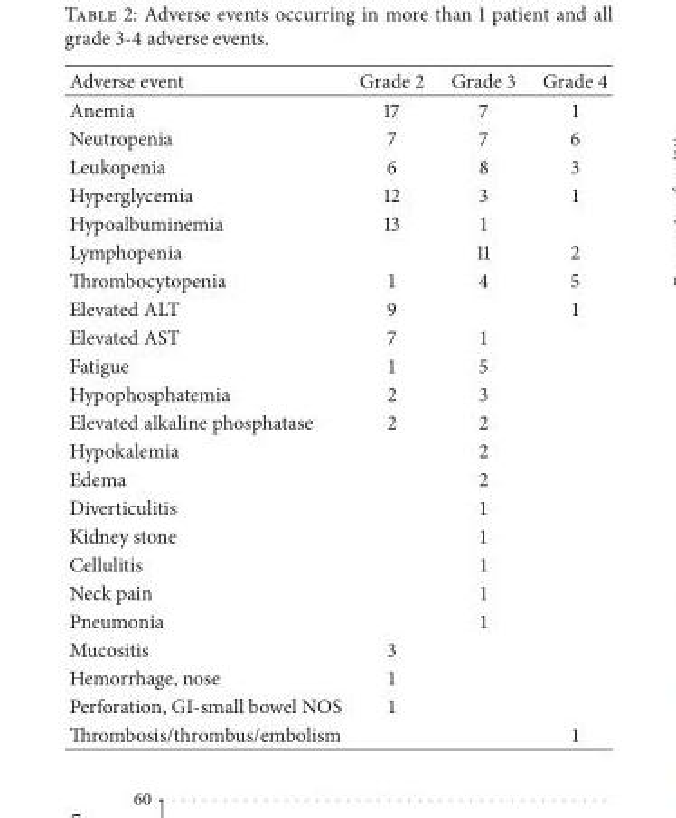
<table><thead><tr><td>Adverse event</td><td>Grade 2</td><td>Grade 3</td><td>Grade 4</td></tr></thead><tbody><tr><td>Anemia</td><td>17</td><td>7</td><td>1</td></tr><tr><td>Neutropenia</td><td>7</td><td>7</td><td>6</td></tr><tr><td>Leukopenia</td><td>6</td><td>8</td><td>3</td></tr><tr><td>Hyperglycemia</td><td>12</td><td>3</td><td>1</td></tr><tr><td>Hypoalbuminemia</td><td>13</td><td>1</td><td></td></tr><tr><td>Lymphopenia</td><td></td><td>11</td><td>2</td></tr><tr><td>Thrombocytopenia</td><td>1</td><td>4</td><td>5</td></tr><tr><td>Elevated ALT</td><td>9</td><td></td><td>1</td></tr><tr><td>Elevated AST</td><td>7</td><td>1</td><td></td></tr><tr><td>Fatigue</td><td>1</td><td>5</td><td></td></tr><tr><td>Hypophosphatemia</td><td>2</td><td>3</td><td></td></tr><tr><td>Elevated alkaline phosphatase</td><td>2</td><td>2</td><td></td></tr><tr><td>Hypokalemia</td><td></td><td>2</td><td></td></tr><tr><td>Edema</td><td></td><td>2</td><td></td></tr><tr><td>Diverticulitis</td><td></td><td>1</td><td></td></tr><tr><td>Kidney stone</td><td></td><td>1</td><td></td></tr><tr><td>Cellulitis</td><td></td><td>1</td><td></td></tr><tr><td>Neck pain</td><td></td><td>1</td><td></td></tr><tr><td>Pneumonia</td><td></td><td>1</td><td></td></tr><tr><td>Mucositis</td><td>3</td><td></td><td></td></tr><tr><td>Hemorrhage, nose</td><td>1</td><td></td><td></td></tr><tr><td>Perforation, GI-small bowel NOS</td><td>1</td><td></td><td></td></tr><tr><td>Thrombosis/thrombus/embolism</td><td></td><td></td><td>1</td></tr></tbody></table>